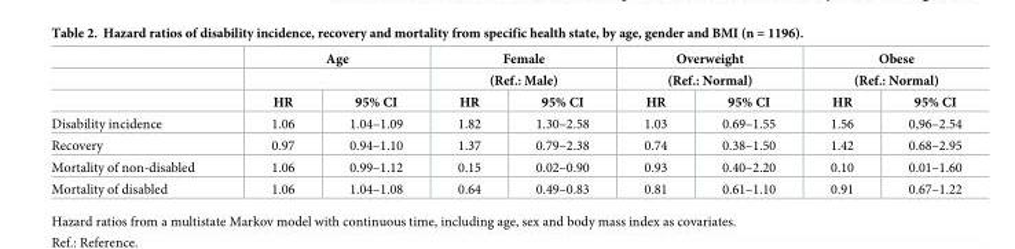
<table><thead><tr><td rowspan="3"></td><td colspan="2">Age</td><td rowspan="2" colspan="2">Female (Ref.: Male)</td><td rowspan="2" colspan="2">Overweight (Ref.: Normal)</td><td rowspan="2" colspan="2">Obese (Ref.: Normal)</td></tr><tr><td rowspan="2">HR</td><td rowspan="2">95% CI</td></tr><tr><td>HR</td><td>95% CI</td><td>HR</td><td>95% CI</td><td>HR</td><td>95% CI</td></tr></thead><tbody><tr><td>Disability incidence</td><td>1.06</td><td>1.04–1.09</td><td>1.82</td><td>1.30–2.58</td><td>1.03</td><td>0.69–1.55</td><td>1.56</td><td>0,96–2.54</td></tr><tr><td>Recovery</td><td>0.97</td><td>0.94–1.10</td><td>1.37</td><td>0.79–2.38</td><td>0.74</td><td>0.38–1.50</td><td>1.42</td><td>0.68–2.95</td></tr><tr><td>Mortality of non-disabled</td><td>1.06</td><td>0.99–1.12</td><td>0.15</td><td>0.02–0.90</td><td>0.93</td><td>0.40–2.20</td><td>0.10</td><td>0.01–1.60</td></tr><tr><td>Mortality of disabled</td><td>1.06</td><td>1.04–1.08</td><td>0.64</td><td>0.49–0.83</td><td>0.81</td><td>0.61–1.10</td><td>0.91</td><td>0.67–1.22</td></tr></tbody></table>